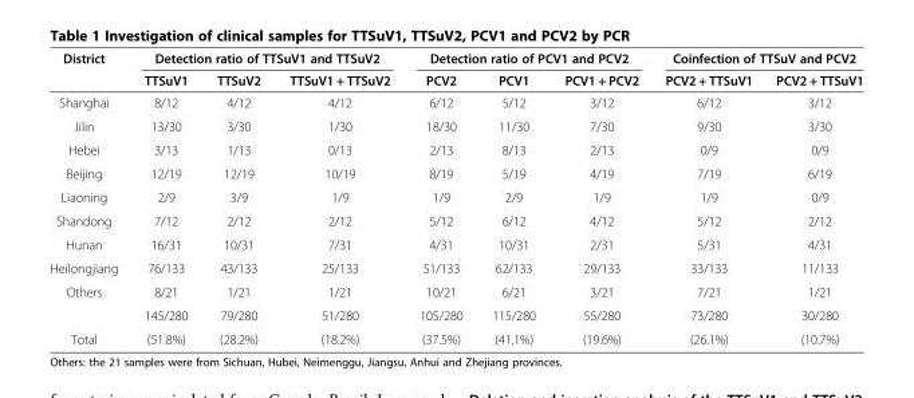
<table><thead><tr><td rowspan="2">District</td><td colspan="3">Detection ratio of TTSuV1 and TTSuV2</td><td colspan="3">Detection ratio of PCV1 and PCV2</td><td colspan="2">Coinfection of TTSuV and PCV2</td></tr><tr><td>TTSuV1</td><td>TTSuV2</td><td>TTSuV1 + TTSuV2</td><td>PCV2</td><td>PCV1</td><td>PCV1 + PCV2</td><td>PCV2 + TTSuV1</td><td>PCV2 + TTSuV1</td></tr></thead><tbody><tr><td>Shanghai</td><td>8/12</td><td>4/12</td><td>4/12</td><td>6/12</td><td>5/12</td><td>3/12</td><td>6/12</td><td>3/12</td></tr><tr><td>Jilin</td><td>13/30</td><td>3/30</td><td>1/30</td><td>18/30</td><td>11/30</td><td>7/30</td><td>9/30</td><td>3/30</td></tr><tr><td>Hebei</td><td>3/13</td><td>1/13</td><td>0/13</td><td>2/13</td><td>8/13</td><td>2/13</td><td>0/9</td><td>0/9</td></tr><tr><td>Beijing</td><td>12/19</td><td>12/19</td><td>10/19</td><td>8/19</td><td>5/19</td><td>4/19</td><td>7/19</td><td>6/19</td></tr><tr><td>Liaoning</td><td>2/9</td><td>3/9</td><td>1/9</td><td>1/9</td><td>2/9</td><td>1/9</td><td>1/9</td><td>0/9</td></tr><tr><td>Shandong</td><td>7/12</td><td>2/12</td><td>2/12</td><td>5/12</td><td>6/12</td><td>4/12</td><td>5/12</td><td>2/12</td></tr><tr><td>Hunan</td><td>16/31</td><td>10/31</td><td>7/31</td><td>4/31</td><td>10/31</td><td>2/31</td><td>5/31</td><td>4/31</td></tr><tr><td>Heilongjiang</td><td>76/133</td><td>43/133</td><td>25/133</td><td>51/133</td><td>62/133</td><td>29/133</td><td>33/133</td><td>11/133</td></tr><tr><td>Others</td><td>8/21</td><td>1/21</td><td>1/21</td><td>10/21</td><td>6/21</td><td>3/21</td><td>7/21</td><td>1/21</td></tr><tr><td rowspan="2">Total</td><td>145/280</td><td>79/280</td><td>51/280</td><td>105/280</td><td>115/280</td><td>55/280</td><td>73/280</td><td>30/280</td></tr><tr><td>(51.8%)</td><td>(28.2%)</td><td>(18.2%)</td><td>(37.5%)</td><td>(41.1%)</td><td>(19.6%)</td><td>(26.1%)</td><td>(10.7%)</td></tr></tbody></table>